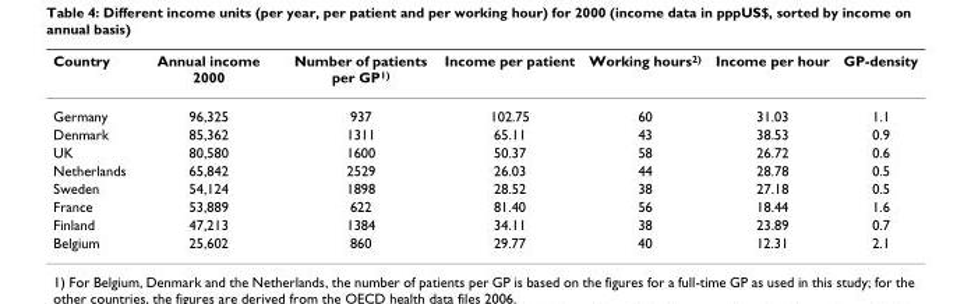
<table><thead><tr><td>Country</td><td>Annual income 2000</td><td>Number of patients per GP<sup>1)</sup></td><td>Income per patient</td><td>Working hours<sup>2)</sup></td><td>Income per hour</td><td>GP-density</td></tr></thead><tbody><tr><td>Germany</td><td>96,325</td><td>937</td><td>102.75</td><td>60</td><td>31.03</td><td>1.1</td></tr><tr><td>Denmark</td><td>85,362</td><td>1311</td><td>65.11</td><td>43</td><td>38.53</td><td>0.9</td></tr><tr><td>UK</td><td>80,580</td><td>1600</td><td>50.37</td><td>58</td><td>26.72</td><td>0.6</td></tr><tr><td>Netherlands</td><td>65,842</td><td>2529</td><td>26.03</td><td>44</td><td>28.78</td><td>0.5</td></tr><tr><td>Sweden</td><td>54,124</td><td>1898</td><td>28.52</td><td>38</td><td>27.18</td><td>0.5</td></tr><tr><td>France</td><td>53,889</td><td>622</td><td>81.40</td><td>56</td><td>18.44</td><td>1.6</td></tr><tr><td>Finland</td><td>47,213</td><td>1384</td><td>34.11</td><td>38</td><td>23.89</td><td>0.7</td></tr><tr><td>Belgium</td><td>25,602</td><td>860</td><td>29.77</td><td>40</td><td>12.31</td><td>2.1</td></tr></tbody></table>